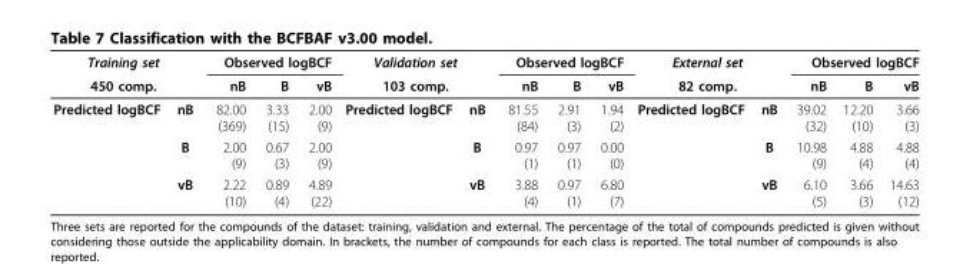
<table><thead><tr><td rowspan="2" colspan="2">Training set 450 comp.</td><td colspan="3">Observed logBCF</td><td rowspan="2" colspan="2">Validation set 103 comp.</td><td colspan="3">Observed logBCF</td><td rowspan="2" colspan="2">External set 82 comp.</td><td colspan="3">Observed logBCF</td></tr><tr><td rowspan="2">nB 82.00 (369)</td><td rowspan="2">B 3.33 (15)</td><td rowspan="2">vB 2.00 (9)</td><td rowspan="2">nB 81.55 (84)</td><td rowspan="2">B 2.91 (3)</td><td rowspan="2">vB 1.94 (2)</td><td rowspan="2">nB 39.02 (32)</td><td rowspan="2">B 12.20 (10)</td><td rowspan="2">vB 3.66 (3)</td></tr><tr><td>Predicted logBCF</td><td>nB</td><td>Predicted logBCF</td><td>nB</td><td>Predicted logBCF</td><td>nB</td></tr></thead><tbody><tr><td></td><td>B</td><td>2.00 (9)</td><td>0.67 (3)</td><td>2.00 (9)</td><td></td><td>B</td><td>0.97 (1)</td><td>0.97 (1)</td><td>0.00 (0)</td><td></td><td>B</td><td>10.98 (9)</td><td>4.88 (4)</td><td>4.88 (4)</td></tr><tr><td></td><td>vB</td><td>2.22 (10)</td><td>0.89 (4)</td><td>4.89 (22)</td><td></td><td>vB</td><td>3.88 (4)</td><td>0.97 (1)</td><td>6.80 (7)</td><td></td><td>vB</td><td>6.10 (5)</td><td>3.66 (3)</td><td>14.63 (12)</td></tr></tbody></table>